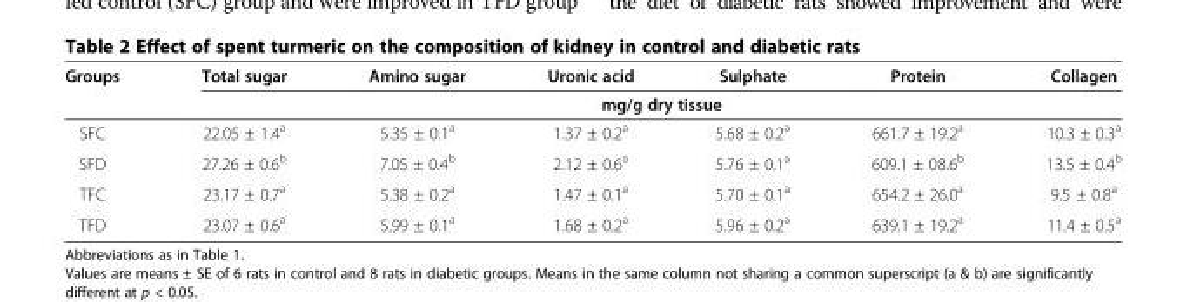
<table><thead><tr><td rowspan="2">Groups</td><td>Total sugar</td><td>Amino sugar</td><td>Uronic acid</td><td>Sulphate</td><td>Protein</td><td>Collagen</td></tr><tr><td colspan="6">mg/g dry tissue</td></tr></thead><tbody><tr><td>SFC</td><td>22.05 ± 1.4<sup>a</sup></td><td>5.35 ± 0.1<sup>a</sup></td><td>1.37 ± 0.2<sup>a</sup></td><td>5.68 ± 0.2<sup>a</sup></td><td>661.7 ± 19.2<sup>a</sup></td><td>10.3 ± 0.3<sup>a</sup></td></tr><tr><td>SFD</td><td>27.26 ± 0.6<sup>b</sup></td><td>7.05 ± 0.4<sup>b</sup></td><td>2.12 ± 0.6<sup>a</sup></td><td>5.76 ± 0.1<sup>a</sup></td><td>609.1 ± 08.6<sup>b</sup></td><td>13.5 ± 0.4<sup>b</sup></td></tr><tr><td>TFC</td><td>23.17 ± 0.7<sup>a</sup></td><td>5.38 ± 0.2<sup>a</sup></td><td>1.47 ± 0.1<sup>a</sup></td><td>5.70 ± 0.1<sup>a</sup></td><td>654.2 ± 26.0<sup>a</sup></td><td>9.5 ± 0.8<sup>a</sup></td></tr><tr><td>TFD</td><td>23.07 ± 0.6<sup>a</sup></td><td>5.99 ± 0.1<sup>a</sup></td><td>1.68 ± 0.2<sup>a</sup></td><td>5.96 ± 0.2<sup>a</sup></td><td>639.1 ± 19.2<sup>a</sup></td><td>11.4 ± 0.5<sup>a</sup></td></tr></tbody></table>